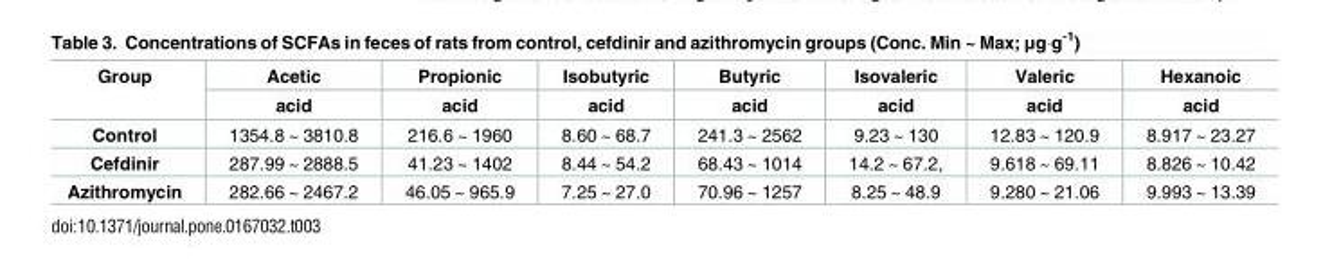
<table><thead><tr><td rowspan="2">Group</td><td rowspan="2">Acetic acid</td><td rowspan="2">Propionic acid</td><td rowspan="2">Isobutyric acid</td><td rowspan="2">Butyric acid</td><td rowspan="2">Isovaleric acid</td><td rowspan="2">Valeric acid</td><td rowspan="2">Hexanoic acid</td></tr><tr></tr></thead><tbody><tr><td>Control</td><td>1354.8 ~ 3810.8</td><td>216.6 ~ 1960</td><td>8.60 ~ 68.7</td><td>241.3 ~ 2562</td><td>9.23 ~ 130</td><td>12.83 ~ 120.9</td><td>8.917 ~ 23.27</td></tr><tr><td>Cefdinir</td><td>287.99 ~ 2888.5</td><td>41.23 ~ 1402</td><td>8.44 ~ 54.2</td><td>68.43 ~ 1014</td><td>14.2 ~ 67.2,</td><td>9.618 ~ 69.11</td><td>8.826 ~ 10.42</td></tr><tr><td>Azithromycin</td><td>282.66 ~ 2467.2</td><td>46.05 ~ 965.9</td><td>7.25 ~ 27.0</td><td>70.96 ~ 1257</td><td>8.25 ~ 48.9</td><td>9.280 ~ 21.06</td><td>9.993 ~ 13.39</td></tr></tbody></table>